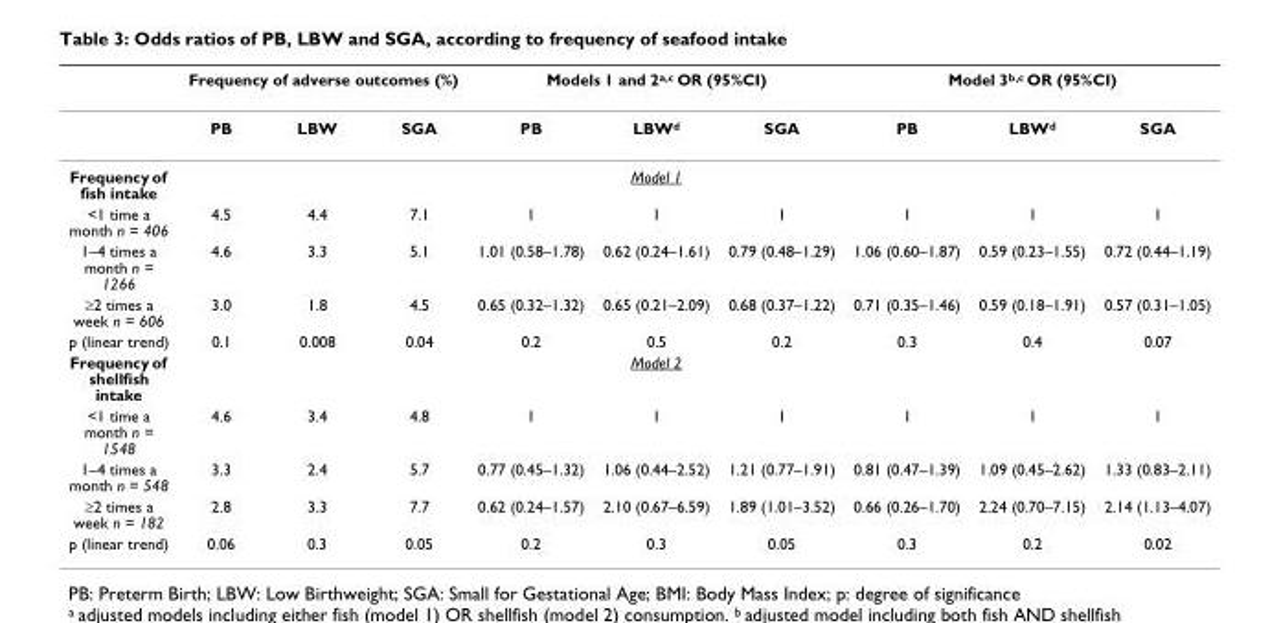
<table><thead><tr><td rowspan="2"></td><td colspan="3">Frequency of adverse outcomes (%)</td><td colspan="3">Models 1 and 2<sup>a,c</sup> OR (95%CI)</td><td colspan="3">Model 3<sup>b,c</sup> OR (95%CI)</td></tr><tr><td>PB</td><td>LBW</td><td>SGA</td><td>PB</td><td>LBW<sup>d</sup></td><td>SGA</td><td>PB</td><td>LBW<sup>d</sup></td><td>SGA</td></tr></thead><tbody><tr><td>Frequency of fish intake</td><td></td><td></td><td></td><td colspan="3">Model 1</td><td></td><td></td><td></td></tr><tr><td>&lt;1 time a month n = 406</td><td>4.5</td><td>4.4</td><td>7.1</td><td>1</td><td>1</td><td>1</td><td>1</td><td>1</td><td>1</td></tr><tr><td>1–4 times a month n = 1266</td><td>4.6</td><td>3.3</td><td>5.1</td><td>1.01 (0.58–1.78)</td><td>0.62 (0.24–1.61)</td><td>0.79 (0.48–1.29)</td><td>1.06 (0.60–1.87)</td><td>0.59 (0.23–1.55)</td><td>0.72 (0.44–1.19)</td></tr><tr><td>≥2 times a week n = 606</td><td>3.0</td><td>1.8</td><td>4.5</td><td>0.65 (0.32–1.32)</td><td>0.65 (0.21–2.09)</td><td>0.68 (0.37–1.22)</td><td>0.71 (0.35–1.46)</td><td>0.59 (0.18–1.91)</td><td>0.57 (0.31–1.05)</td></tr><tr><td>p (linear trend)</td><td>0.1</td><td>0.008</td><td>0.04</td><td>0.2</td><td>0.5</td><td>0.2</td><td>0.3</td><td>0.4</td><td>0.07</td></tr><tr><td>Frequency of shellfish intake</td><td></td><td></td><td></td><td colspan="3">Model 2</td><td></td><td></td><td></td></tr><tr><td>&lt;1 time a month n = 1548</td><td>4.6</td><td>3.4</td><td>4.8</td><td>1</td><td>1</td><td>1</td><td>1</td><td>1</td><td>1</td></tr><tr><td>1–4 times a month n = 548</td><td>3.3</td><td>2.4</td><td>5.7</td><td>0.77 (0.45–1.32)</td><td>1.06 (0.44–2.52)</td><td>1.21 (0.77–1.91)</td><td>0.81 (0.47–1.39)</td><td>1.09 (0.45–2.62)</td><td>1.33 (0.83–2.11)</td></tr><tr><td>≥2 times a week n = 182</td><td>2.8</td><td>3.3</td><td>7.7</td><td>0.62 (0.24–1.57)</td><td>2.10 (0.67–6.59)</td><td>1.89 (1.01–3.52)</td><td>0.66 (0.26–1.70)</td><td>2.24 (0.70–7.15)</td><td>2.14 (1.13–4.07)</td></tr><tr><td>p (linear trend)</td><td>0.06</td><td>0.3</td><td>0.05</td><td>0.2</td><td>0.3</td><td>0.05</td><td>0.3</td><td>0.2</td><td>0.02</td></tr></tbody></table>